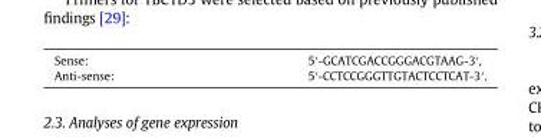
<table><tbody><tr><td>Sense:</td><td>5′-GCATCGACCGGGACGTAAG-3′,</td></tr><tr><td>Anti-sense:</td><td>5′-CCTCCGGGTTGTACTCCTCAT-3′.</td></tr></tbody></table>